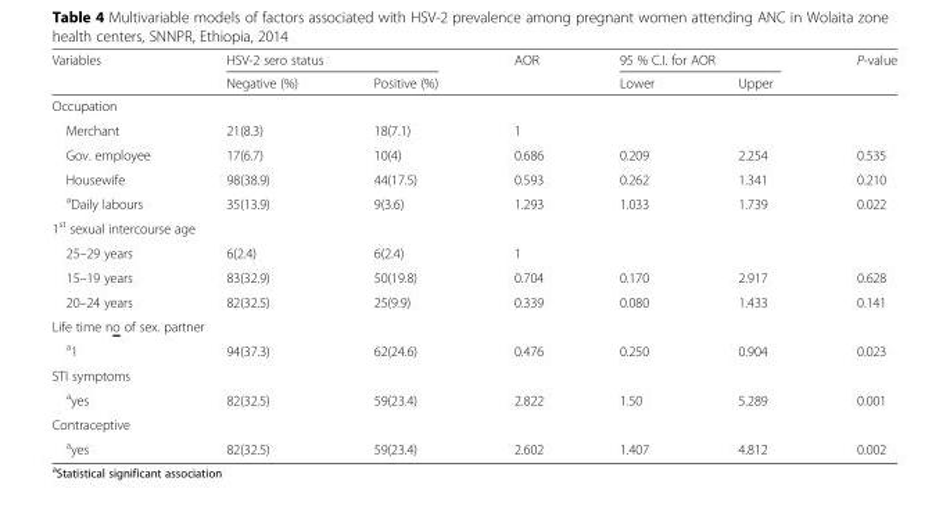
<table><thead><tr><td rowspan="2">Variables</td><td colspan="2">HSV-2 sero status</td><td rowspan="2">AOR</td><td colspan="2">95 % C.I. for AOR</td><td rowspan="2">P-value</td></tr><tr><td>Negative (%)</td><td>Positive (%)</td><td>Lower</td><td>Upper</td></tr></thead><tbody><tr><td colspan="7">Occupation</td></tr><tr><td>Merchant</td><td>21(8.3)</td><td>18(7.1)</td><td>1</td><td></td><td></td><td></td></tr><tr><td>Gov. employee</td><td>17(6.7)</td><td>10(4)</td><td>0.686</td><td>0.209</td><td>2.254</td><td>0.535</td></tr><tr><td>Housewife</td><td>98(38.9)</td><td>44(17.5)</td><td>0.593</td><td>0.262</td><td>1.341</td><td>0.210</td></tr><tr><td><sup>a</sup>Daily labours</td><td>35(13.9)</td><td>9(3.6)</td><td>1.293</td><td>1.033</td><td>1.739</td><td>0.022</td></tr><tr><td colspan="7">1<sup>st</sup> sexual intercourse age</td></tr><tr><td>25–29 years</td><td>6(2.4)</td><td>6(2.4)</td><td>1</td><td></td><td></td><td></td></tr><tr><td>15–19 years</td><td>83(32.9)</td><td>50(19.8)</td><td>0.704</td><td>0.170</td><td>2.917</td><td>0.628</td></tr><tr><td>20–24 years</td><td>82(32.5)</td><td>25(9.9)</td><td>0.339</td><td>0.080</td><td>1.433</td><td>0.141</td></tr><tr><td colspan="7">Life time no of sex. partner</td></tr><tr><td><sup>a</sup>1</td><td>94(37.3)</td><td>62(24.6)</td><td>0.476</td><td>0.250</td><td>0.904</td><td>0.023</td></tr><tr><td colspan="7">STI symptoms</td></tr><tr><td><sup>a</sup>yes</td><td>82(32.5)</td><td>59(23.4)</td><td>2.822</td><td>1.50</td><td>5.289</td><td>0.001</td></tr><tr><td colspan="7">Contraceptive</td></tr><tr><td><sup>a</sup>yes</td><td>82(32.5)</td><td>59(23.4)</td><td>2.602</td><td>1.407</td><td>4.812</td><td>0.002</td></tr></tbody></table>